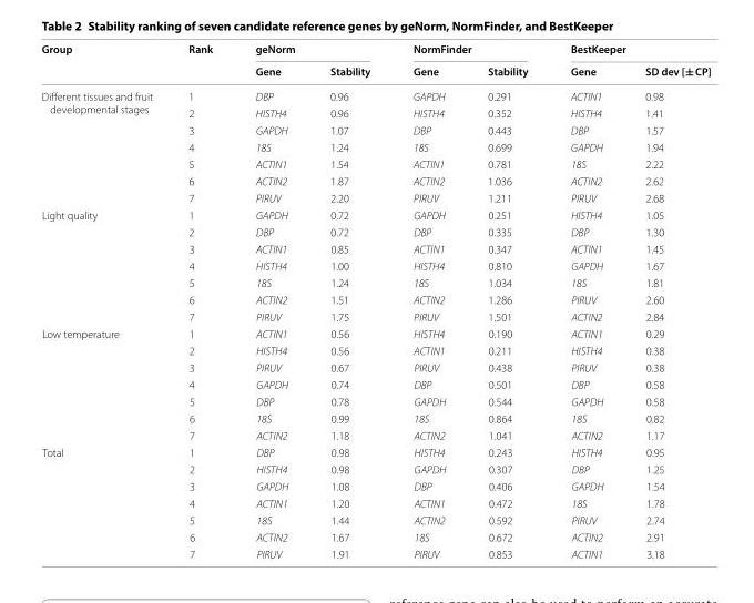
<table><thead><tr><td rowspan="2">Group</td><td rowspan="2">Rank</td><td colspan="2">geNorm</td><td colspan="2">NormFinder</td><td colspan="2">BestKeeper</td></tr><tr><td>Gene</td><td>Stability</td><td>Gene</td><td>Stability</td><td>Gene</td><td>SD dev [± CP]</td></tr></thead><tbody><tr><td rowspan="7">Different tissues and fruit developmental stages</td><td>1</td><td>DBP</td><td>0.96</td><td>GAPDH</td><td>0.291</td><td>ACTIN1</td><td>0.98</td></tr><tr><td>2</td><td>HISTH4</td><td>0.96</td><td>HISTH4</td><td>0.352</td><td>HISTH4</td><td>1.41</td></tr><tr><td>3</td><td>GAPDH</td><td>1.07</td><td>DBP</td><td>0.443</td><td>DBP</td><td>1.57</td></tr><tr><td>4</td><td>18S</td><td>1.24</td><td>18S</td><td>0.699</td><td>GAPDH</td><td>1.94</td></tr><tr><td>5</td><td>ACTIN1</td><td>1.54</td><td>ACTIN1</td><td>0.781</td><td>18S</td><td>2.22</td></tr><tr><td>6</td><td>ACTIN2</td><td>1.87</td><td>ACTIN2</td><td>1.036</td><td>ACTIN2</td><td>2.62</td></tr><tr><td>7</td><td>PIRUV</td><td>2.20</td><td>PIRUV</td><td>1.211</td><td>PIRUV</td><td>2.68</td></tr><tr><td rowspan="7">Light quality</td><td>1</td><td>GAPDH</td><td>0.72</td><td>GAPDH</td><td>0.251</td><td>HISTH4</td><td>1.05</td></tr><tr><td>2</td><td>DBP</td><td>0.72</td><td>DBP</td><td>0.335</td><td>DBP</td><td>1.30</td></tr><tr><td>3</td><td>ACTIN1</td><td>0.85</td><td>ACTIN1</td><td>0.347</td><td>ACTIN1</td><td>1.45</td></tr><tr><td>4</td><td>HISTH4</td><td>1.00</td><td>HISTH4</td><td>0.810</td><td>GAPDH</td><td>1.67</td></tr><tr><td>5</td><td>18S</td><td>1.24</td><td>18S</td><td>1.034</td><td>18S</td><td>1.81</td></tr><tr><td>6</td><td>ACTIN2</td><td>1.51</td><td>ACTIN2</td><td>1.286</td><td>PIRUV</td><td>2.60</td></tr><tr><td>7</td><td>PIRUV</td><td>1.75</td><td>PIRUV</td><td>1.501</td><td>ACTIN2</td><td>2.84</td></tr><tr><td rowspan="7">Low temperature</td><td>1</td><td>ACTIN1</td><td>0.56</td><td>HISTH4</td><td>0.190</td><td>ACTIN1</td><td>0.29</td></tr><tr><td>2</td><td>HISTH4</td><td>0.56</td><td>ACTIN1</td><td>0.211</td><td>HISTH4</td><td>0.38</td></tr><tr><td>3</td><td>PIRUV</td><td>0.67</td><td>PIRUV</td><td>0.438</td><td>PIRUV</td><td>0.38</td></tr><tr><td>4</td><td>GAPDH</td><td>0.74</td><td>DBP</td><td>0.501</td><td>DBP</td><td>0.58</td></tr><tr><td>5</td><td>DBP</td><td>0.78</td><td>GAPDH</td><td>0.544</td><td>GAPDH</td><td>0.58</td></tr><tr><td>6</td><td>18S</td><td>0.99</td><td>18S</td><td>0.864</td><td>18S</td><td>0.82</td></tr><tr><td>7</td><td>ACTIN2</td><td>1.18</td><td>ACTIN2</td><td>1.041</td><td>ACTIN2</td><td>1.17</td></tr><tr><td rowspan="7">Total</td><td>1</td><td>DBP</td><td>0.98</td><td>HISTH4</td><td>0.243</td><td>HISTH4</td><td>0.95</td></tr><tr><td>2</td><td>HISTH4</td><td>0.98</td><td>GAPDH</td><td>0.307</td><td>DBP</td><td>1.25</td></tr><tr><td>3</td><td>GAPDH</td><td>1.08</td><td>DBP</td><td>0.406</td><td>GAPDH</td><td>1.54</td></tr><tr><td>4</td><td>ACTIN1</td><td>1.20</td><td>ACTIN1</td><td>0.472</td><td>18S</td><td>1.78</td></tr><tr><td>5</td><td>18S</td><td>1.44</td><td>ACTIN2</td><td>0.592</td><td>PIRUV</td><td>2.74</td></tr><tr><td>6</td><td>ACTIN2</td><td>1.67</td><td>18S</td><td>0.672</td><td>ACTIN2</td><td>2.91</td></tr><tr><td>7</td><td>PIRUV</td><td>1.91</td><td>PIRUV</td><td>0.853</td><td>ACTIN1</td><td>3.18</td></tr></tbody></table>